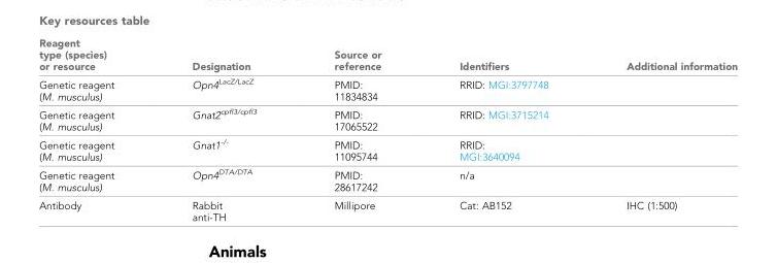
<table><thead><tr><td>Reagent type (species) or resource</td><td>Designation</td><td>Source or reference</td><td>Identifiers</td><td>Additional information</td></tr></thead><tbody><tr><td>Genetic reagent (M. musculus)</td><td>Opn4<sup>LacZ/LacZ</sup></td><td>PMID: 11834834</td><td>RRID: MGI:3797748</td><td></td></tr><tr><td>Genetic reagent (M. musculus)</td><td>Gnat2<sup>cpfl3/cpfl3</sup></td><td>PMID: 17065522</td><td>RRID: MGI:3715214</td><td></td></tr><tr><td>Genetic reagent (M. musculus)</td><td>Gnat1<sup>-/-</sup></td><td>PMID: 11095744</td><td>RRID: MGI:3640094</td><td></td></tr><tr><td>Genetic reagent (M. musculus)</td><td>Opn4<sup>DTA/DTA</sup></td><td>PMID: 28617242</td><td>n/a</td><td></td></tr><tr><td>Antibody</td><td>Rabbit anti-TH</td><td>Millipore</td><td>Cat: AB152</td><td>IHC (1:500)</td></tr></tbody></table>